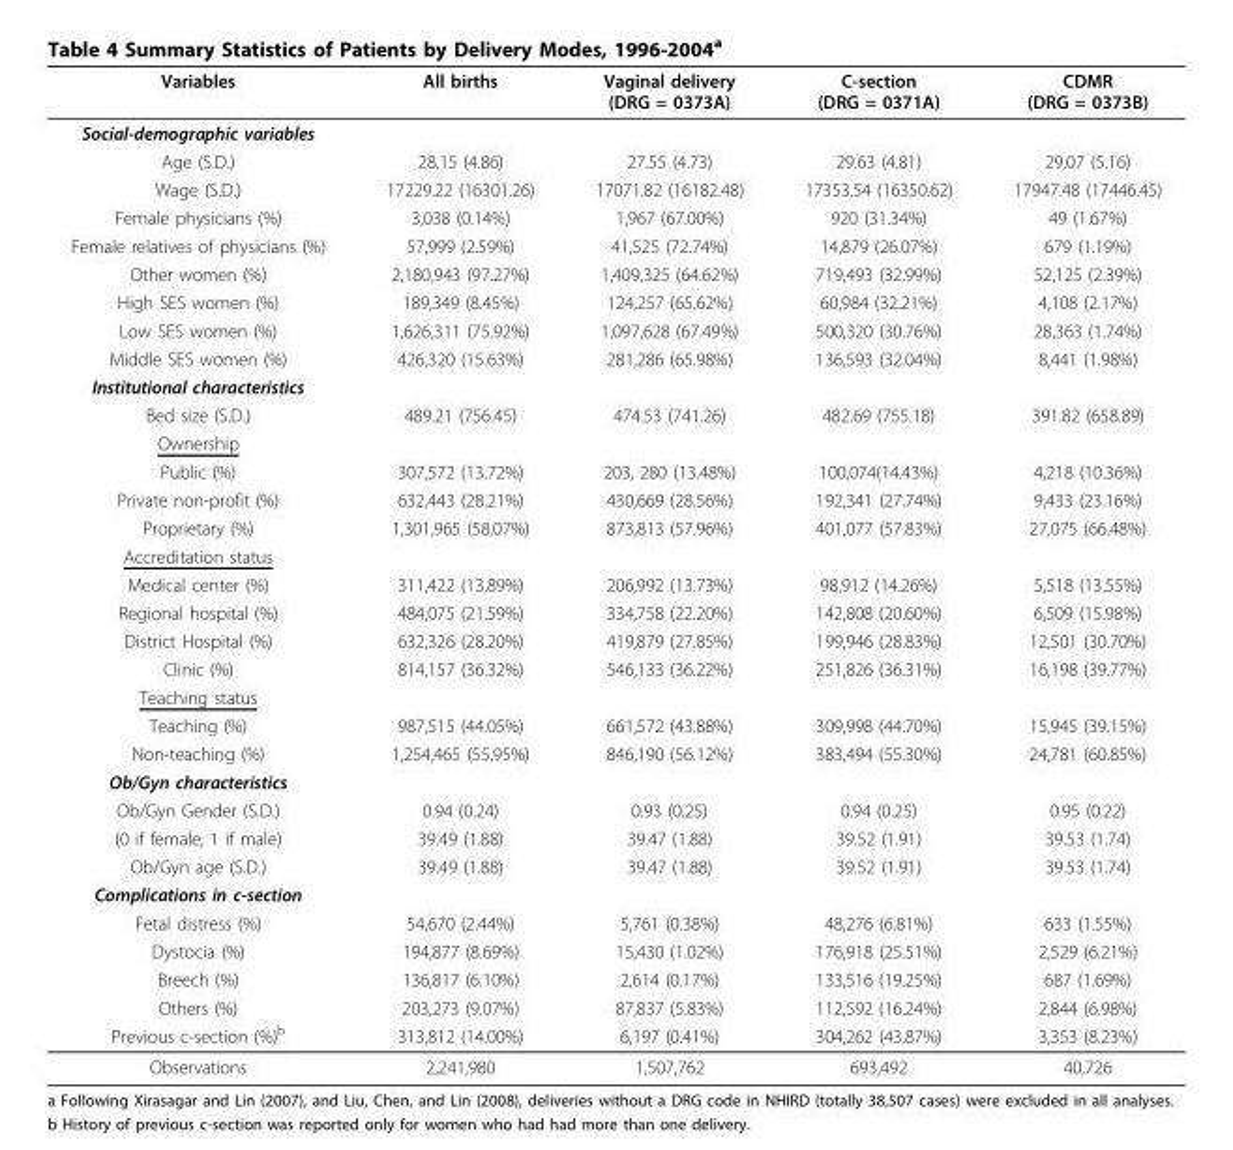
<table><thead><tr><td>Variables</td><td>All births</td><td>Vaginal delivery (DRG = 0373A)</td><td>C-section (DRG = 0371A)</td><td>CDMR (DRG = 0373B)</td></tr></thead><tbody><tr><td colspan="5">Social-demographic variables</td></tr><tr><td>Age (S.D.)</td><td>28.15 (4.86)</td><td>27.55 (4.73)</td><td>29.63 (4.81)</td><td>29.07 (5.16)</td></tr><tr><td>Wage (S.D.)</td><td>17229.22 (16301.26)</td><td>17071.82 (16182.48)</td><td>17353.54 (16350.62)</td><td>17947.48 (17446.45)</td></tr><tr><td>Female physicians (%)</td><td>3,038 (0.14%)</td><td>1,967 (67.00%)</td><td>920 (31.34%)</td><td>49 (1.67%)</td></tr><tr><td>Female relatives of physicians (%)</td><td>57,999 (2.59%)</td><td>41,525 (72.74%)</td><td>14,879 (26.07%)</td><td>679 (1.19%)</td></tr><tr><td>Other women (%)</td><td>2,180,943 (97.27%)</td><td>1,409,325 (64.62%)</td><td>719,493 (32.99%)</td><td>52,125 (2.39%)</td></tr><tr><td>High SES women (%)</td><td>189,349 (8.45%)</td><td>124,257 (65.62%)</td><td>60,984 (32.21%)</td><td>4,108 (2.17%)</td></tr><tr><td>Low SES women (%)</td><td>1,626,311 (75.92%)</td><td>1,097,628 (67.49%)</td><td>500,320 (30.76%)</td><td>28,363 (1.74%)</td></tr><tr><td>Middle SES women (%)</td><td>426,320 (15.63%)</td><td>281,286 (65.98%)</td><td>136,593 (32.04%)</td><td>8,441 (1.98%)</td></tr><tr><td colspan="5">Institutional characteristics</td></tr><tr><td>Bed size (S.D.)</td><td>489.21 (756.45)</td><td>474.53 (741.26)</td><td>482.69 (755.18)</td><td>391.82 (658.89)</td></tr><tr><td colspan="5">Ownership</td></tr><tr><td>Public (%)</td><td>307,572 (13.72%)</td><td>203, 280 (13.48%)</td><td>100,074(14.43%)</td><td>4,218 (10.36%)</td></tr><tr><td>Private non-profit (%)</td><td>632,443 (28.21%)</td><td>430,669 (28.56%)</td><td>192,341 (27.74%)</td><td>9,433 (23.16%)</td></tr><tr><td>Proprietary (%)</td><td>1,301,965 (58.07%)</td><td>873,813 (57.96%)</td><td>401,077 (57.83%)</td><td>27,075 (66.48%)</td></tr><tr><td colspan="5">Accreditation status</td></tr><tr><td>Medical center (%)</td><td>311,422 (13.89%)</td><td>206,992 (13.73%)</td><td>98,912 (14.26%)</td><td>5,518 (13.55%)</td></tr><tr><td>Regional hospital (%)</td><td>484,075 (21.59%)</td><td>334,758 (22.20%)</td><td>142,808 (20.60%)</td><td>6,509 (15.98%)</td></tr><tr><td>District Hospital (%)</td><td>632,326 (28.20%)</td><td>419,879 (27.85%)</td><td>199,946 (28.83%)</td><td>12,501 (30.70%)</td></tr><tr><td>Clinic (%)</td><td>814,157 (36.32%)</td><td>546,133 (36.22%)</td><td>251,826 (36.31%)</td><td>16,198 (39.77%)</td></tr><tr><td colspan="5">Teaching status</td></tr><tr><td>Teaching (%)</td><td>987,515 (44.05%)</td><td>661,572 (43.88%)</td><td>309,998 (44.70%)</td><td>15,945 (39.15%)</td></tr><tr><td>Non-teaching (%)</td><td>1,254,465 (55.95%)</td><td>846,190 (56.12%)</td><td>383,494 (55.30%)</td><td>24,781 (60.85%)</td></tr><tr><td colspan="5">Ob/Gyn characteristics</td></tr><tr><td>Ob/Gyn Gender (S.D.)</td><td>0.94 (0.24)</td><td>0.93 (0.25)</td><td>0.94 (0.25)</td><td>0.95 (0.22)</td></tr><tr><td>(0 if female; 1 if male)</td><td>39.49 (1.88)</td><td>39.47 (1.88)</td><td>39.52 (1.91)</td><td>39.53 (1.74)</td></tr><tr><td>Ob/Gyn age (S.D.)</td><td>39.49 (1.88)</td><td>39.47 (1.88)</td><td>39.52 (1.91)</td><td>39.53 (1.74)</td></tr><tr><td colspan="5">Complications in c-section</td></tr><tr><td>Fetal distress (%)</td><td>54,670 (2.44%)</td><td>5,761 (0.38%)</td><td>48,276 (6.81%)</td><td>633 (1.55%)</td></tr><tr><td>Dystocia (%)</td><td>194,877 (8.69%)</td><td>15,430 (1.02%)</td><td>176,918 (25.51%)</td><td>2,529 (6.21%)</td></tr><tr><td>Breech (%)</td><td>136,817 (6.10%)</td><td>2,614 (0.17%)</td><td>133,516 (19.25%)</td><td>687 (1.69%)</td></tr><tr><td>Others (%)</td><td>203,273 (9.07%)</td><td>87,837 (5.83%)</td><td>112,592 (16.24%)</td><td>2,844 (6.98%)</td></tr><tr><td>Previous c-section (%)<sup>b</sup></td><td>313,812 (14.00%)</td><td>6,197 (0.41%)</td><td>304,262 (43.87%)</td><td>3,353 (8.23%)</td></tr><tr><td>Observations</td><td>2,241,980</td><td>1,507,762</td><td>693,492</td><td>40,726</td></tr></tbody></table>